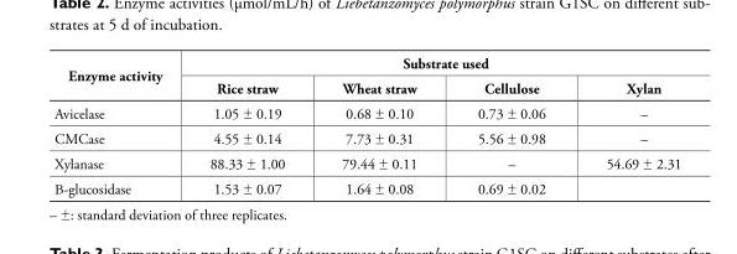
<table><tbody><tr><td rowspan="2">Enzyme activity</td><td colspan="4">Substrate used</td></tr><tr><td>Rice straw</td><td>Wheat straw</td><td>Cellulose</td><td>Xylan</td></tr><tr><td>Avicelase</td><td>1.05 ± 0.19</td><td>0.68 ± 0.10</td><td>0.73 ± 0.06</td><td>–</td></tr><tr><td>CMCase</td><td>4.55 ± 0.14</td><td>7.73 ± 0.31</td><td>5.56 ± 0.98</td><td>–</td></tr><tr><td>Xylanase</td><td>88.33 ± 1.00</td><td>79.44 ± 0.11</td><td>–</td><td>54.69 ± 2.31</td></tr><tr><td>Β-glucosidase</td><td>1.53 ± 0.07</td><td>1.64 ± 0.08</td><td>0.69 ± 0.02</td><td></td></tr></tbody></table>